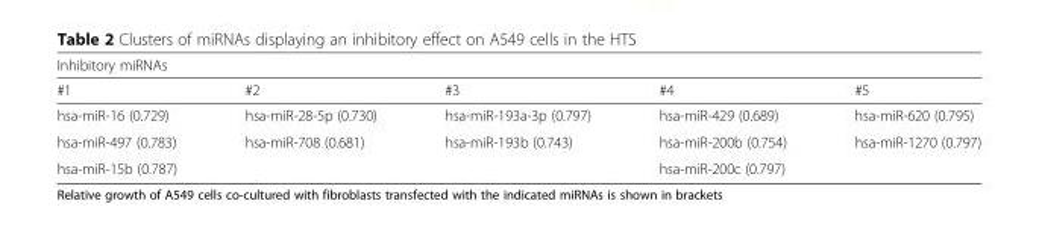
<table><thead><tr><td colspan="5">Inhibitory miRNAs</td></tr><tr><td>#1</td><td>#2</td><td>#3</td><td>#4</td><td>#5</td></tr></thead><tbody><tr><td>hsa-miR-16 (0.729)</td><td>hsa-miR-28-5p (0.730)</td><td>hsa-miR-193a-3p (0.797)</td><td>hsa-miR-429 (0.689)</td><td>hsa-miR-620 (0.795)</td></tr><tr><td>hsa-miR-497 (0.783)</td><td>hsa-miR-708 (0.681)</td><td>hsa-miR-193b (0.743)</td><td>hsa-miR-200b (0.754)</td><td>hsa-miR-1270 (0.797)</td></tr><tr><td>hsa-miR-15b (0.787)</td><td></td><td></td><td>hsa-miR-200c (0.797)</td><td></td></tr></tbody></table>